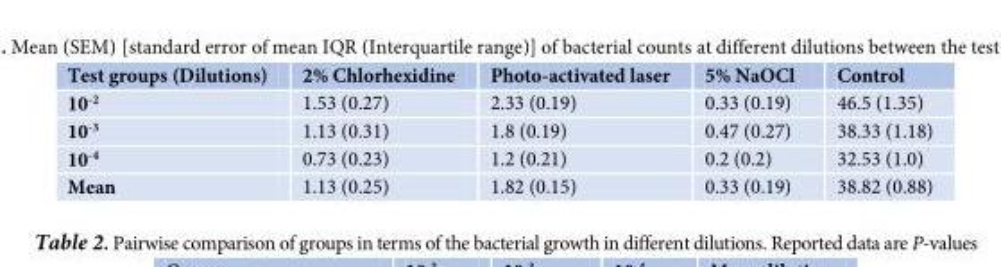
<table><thead><tr><td>Test groups (Dilutions)</td><td>2% Chlorhexidine</td><td>Photo-activated laser</td><td>5% NaOCl</td><td>Control</td></tr></thead><tbody><tr><td>10<sup>-2</sup></td><td>1.53 (0.27)</td><td>2.33 (0.19)</td><td>0.33 (0.19)</td><td>46.5 (1.35)</td></tr><tr><td>10<sup>-3</sup></td><td>1.13 (0.31)</td><td>1.8 (0.19)</td><td>0.47 (0.27)</td><td>38.33 (1.18)</td></tr><tr><td>10<sup>-4</sup></td><td>0.73 (0.23)</td><td>1.2 (0.21)</td><td>0.2 (0.2)</td><td>32.53 (1.0)</td></tr><tr><td>Mean</td><td>1.13 (0.25)</td><td>1.82 (0.15)</td><td>0.33 (0.19)</td><td>38.82 (0.88)</td></tr></tbody></table>